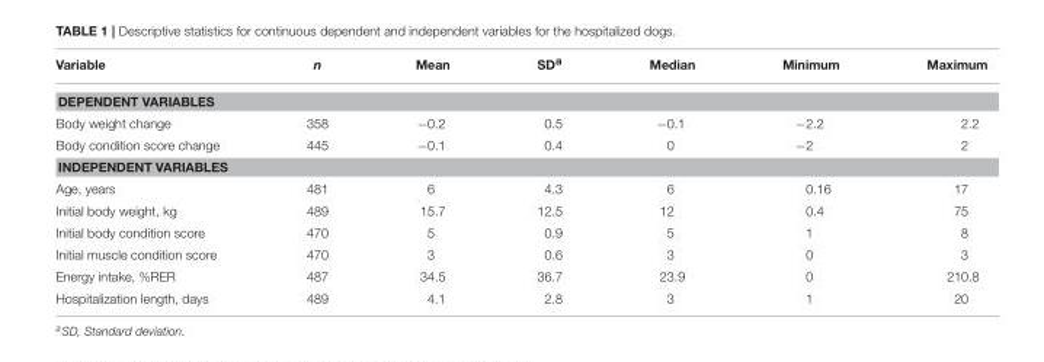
<table><thead><tr><td>Variable</td><td>n</td><td>Mean</td><td>SD<sup>a</sup></td><td>Median</td><td>Minimum</td><td>Maximum</td></tr></thead><tbody><tr><td colspan="7">DEPENDENT VARIABLES</td></tr><tr><td>Body weight change</td><td>358</td><td>−0.2</td><td>0.5</td><td>−0.1</td><td>−2.2</td><td>2.2</td></tr><tr><td>Body condition score change</td><td>445</td><td>−0.1</td><td>0.4</td><td>0</td><td>−2</td><td>2</td></tr><tr><td colspan="7">INDEPENDENT VARIABLES</td></tr><tr><td>Age, years</td><td>481</td><td>6</td><td>4.3</td><td>6</td><td>0.16</td><td>17</td></tr><tr><td>Initial body weight, kg</td><td>489</td><td>15.7</td><td>12.5</td><td>12</td><td>0.4</td><td>75</td></tr><tr><td>Initial body condition score</td><td>470</td><td>5</td><td>0.9</td><td>5</td><td>1</td><td>8</td></tr><tr><td>Initial muscle condition score</td><td>470</td><td>3</td><td>0.6</td><td>3</td><td>0</td><td>3</td></tr><tr><td>Energy intake, %RER</td><td>487</td><td>34.5</td><td>36.7</td><td>23.9</td><td>0</td><td>210.8</td></tr><tr><td>Hospitalization length, days</td><td>489</td><td>4.1</td><td>2.8</td><td>3</td><td>1</td><td>20</td></tr></tbody></table>